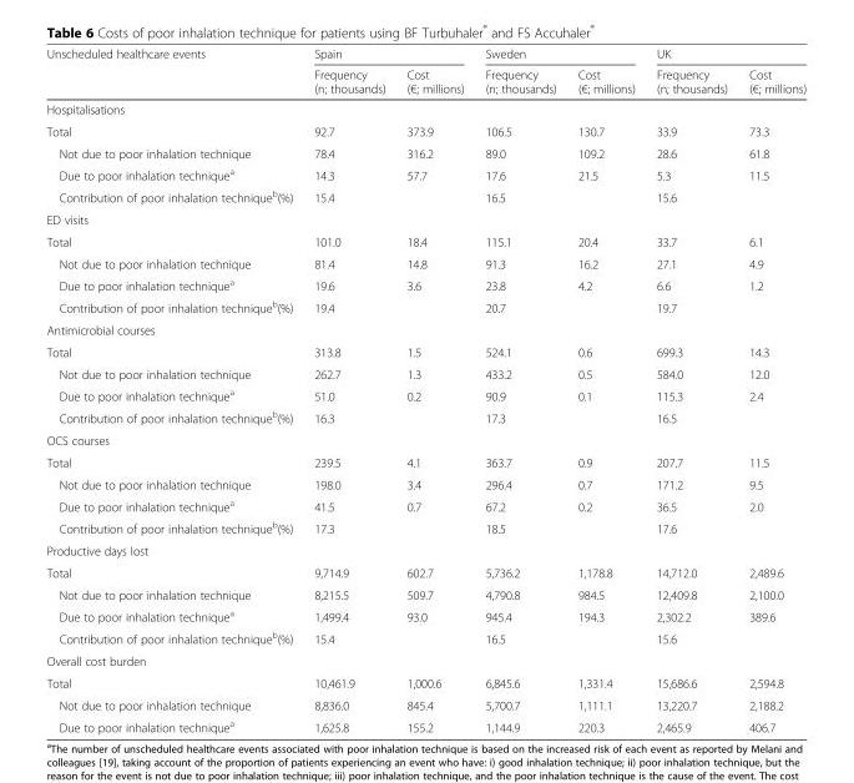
<table><thead><tr><td rowspan="2">Unscheduled healthcare events</td><td colspan="2">Spain</td><td colspan="2">Sweden</td><td colspan="2">UK</td></tr><tr><td>Frequency (n; thousands)</td><td>Cost (€; millions)</td><td>Frequency (n; thousands)</td><td>Cost (€; millions)</td><td>Frequency (n; thousands)</td><td>Cost (€; millions)</td></tr></thead><tbody><tr><td colspan="7">Hospitalisations</td></tr><tr><td>Total</td><td>92.7</td><td>373.9</td><td>106.5</td><td>130.7</td><td>33.9</td><td>73.3</td></tr><tr><td>Not due to poor inhalation technique</td><td>78.4</td><td>316.2</td><td>89.0</td><td>109.2</td><td>28.6</td><td>61.8</td></tr><tr><td>Due to poor inhalation technique<sup>a</sup></td><td>14.3</td><td>57.7</td><td>17.6</td><td>21.5</td><td>5.3</td><td>11.5</td></tr><tr><td>Contribution of poor inhalation technique<sup>b</sup>(%)</td><td colspan="2">15.4</td><td colspan="2">16.5</td><td colspan="2">15.6</td></tr><tr><td colspan="7">ED visits</td></tr><tr><td>Total</td><td>101.0</td><td>18.4</td><td>115.1</td><td>20.4</td><td>33.7</td><td>6.1</td></tr><tr><td>Not due to poor inhalation technique</td><td>81.4</td><td>14.8</td><td>91.3</td><td>16.2</td><td>27.1</td><td>4.9</td></tr><tr><td>Due to poor inhalation technique<sup>a</sup></td><td>19.6</td><td>3.6</td><td>23.8</td><td>4.2</td><td>6.6</td><td>1.2</td></tr><tr><td>Contribution of poor inhalation technique<sup>b</sup>(%)</td><td colspan="2">19.4</td><td colspan="2">20.7</td><td colspan="2">19.7</td></tr><tr><td colspan="7">Antimicrobial courses</td></tr><tr><td>Total</td><td>313.8</td><td>1.5</td><td>524.1</td><td>0.6</td><td>699.3</td><td>14.3</td></tr><tr><td>Not due to poor inhalation technique</td><td>262.7</td><td>1.3</td><td>433.2</td><td>0.5</td><td>584.0</td><td>12.0</td></tr><tr><td>Due to poor inhalation technique<sup>a</sup></td><td>51.0</td><td>0.2</td><td>90.9</td><td>0.1</td><td>115.3</td><td>2.4</td></tr><tr><td>Contribution of poor inhalation technique<sup>b</sup>(%)</td><td colspan="2">16.3</td><td colspan="2">17.3</td><td colspan="2">16.5</td></tr><tr><td colspan="7">OCS courses</td></tr><tr><td>Total</td><td>239.5</td><td>4.1</td><td>363.7</td><td>0.9</td><td>207.7</td><td>11.5</td></tr><tr><td>Not due to poor inhalation technique</td><td>198.0</td><td>3.4</td><td>296.4</td><td>0.7</td><td>171.2</td><td>9.5</td></tr><tr><td>Due to poor inhalation technique<sup>a</sup></td><td>41.5</td><td>0.7</td><td>67.2</td><td>0.2</td><td>36.5</td><td>2.0</td></tr><tr><td>Contribution of poor inhalation technique<sup>b</sup>(%)</td><td colspan="2">17.3</td><td colspan="2">18.5</td><td colspan="2">17.6</td></tr><tr><td colspan="7">Productive days lost</td></tr><tr><td>Total</td><td>9,714.9</td><td>602.7</td><td>5,736.2</td><td>1,178.8</td><td>14,712.0</td><td>2,489.6</td></tr><tr><td>Not due to poor inhalation technique</td><td>8,215.5</td><td>509.7</td><td>4,790.8</td><td>984.5</td><td>12,409.8</td><td>2,100.0</td></tr><tr><td>Due to poor inhalation technique<sup>a</sup></td><td>1,499.4</td><td>93.0</td><td>945.4</td><td>194.3</td><td>2,302.2</td><td>389.6</td></tr><tr><td>Contribution of poor inhalation technique<sup>b</sup>(%)</td><td colspan="2">15.4</td><td colspan="2">16.5</td><td colspan="2">15.6</td></tr><tr><td colspan="7">Overall cost burden</td></tr><tr><td>Total</td><td>10,461.9</td><td>1,000.6</td><td>6,845.6</td><td>1,331.4</td><td>15,686.6</td><td>2,594.8</td></tr><tr><td>Not due to poor inhalation technique</td><td>8,836.0</td><td>845.4</td><td>5,700.7</td><td>1,111.1</td><td>13,220.7</td><td>2,188.2</td></tr><tr><td>Due to poor inhalation technique<sup>a</sup></td><td>1,625.8</td><td>155.2</td><td>1,144.9</td><td>220.3</td><td>2,465.9</td><td>406.7</td></tr></tbody></table>